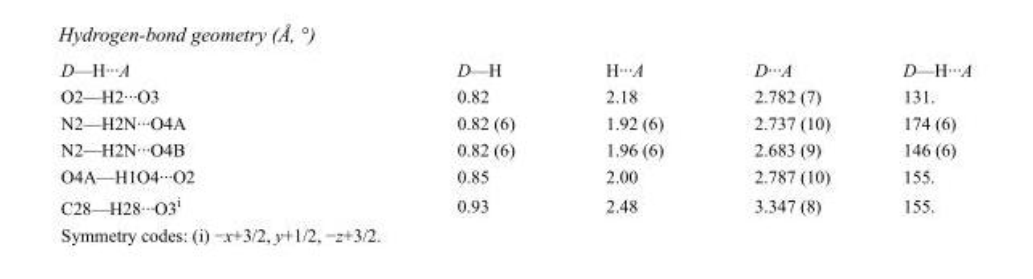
<table><tbody><tr><td>D—H···A</td><td>D—H</td><td>H···A</td><td>D···A</td><td>D—H···A</td></tr><tr><td>O2—H2···O3</td><td>0.82</td><td>2.18</td><td>2.782 (7)</td><td>131.</td></tr><tr><td>N2—H2N···O4A</td><td>0.82 (6)</td><td>1.92 (6)</td><td>2.737 (10)</td><td>174 (6)</td></tr><tr><td>N2—H2N···O4B</td><td>0.82 (6)</td><td>1.96 (6)</td><td>2.683 (9)</td><td>146 (6)</td></tr><tr><td>O4A—H1O4···O2</td><td>0.85</td><td>2.00</td><td>2.787 (10)</td><td>155.</td></tr><tr><td>C28—H28···O3<sup>i</sup></td><td>0.93</td><td>2.48</td><td>3.347 (8)</td><td>155.</td></tr></tbody></table>